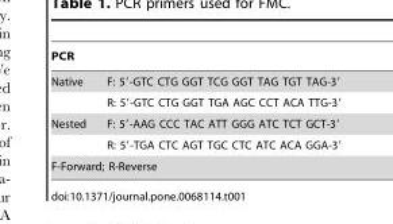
<table><thead><tr><td>PCR</td><td></td></tr></thead><tbody><tr><td rowspan="2">Native</td><td>F: 5′-GTC CTG GGT TCG GGT TAG TGT TAG-3′</td></tr><tr><td>R: 5′-GTC CTG GGT TGA AGC CCT ACA TTG-3′</td></tr><tr><td rowspan="2">Nested</td><td>F: 5′-AAG CCC TAC ATT GGG ATC TCT GCT-3′</td></tr><tr><td>R: 5′-TGA CTC AGT TGC CTC ATC ACA GGA-3′</td></tr><tr><td colspan="2">F-Forward; R-Reverse</td></tr></tbody></table>